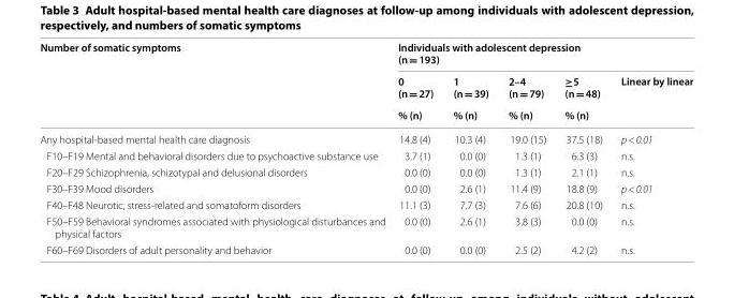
<table><thead><tr><td rowspan="3">Number of somatic symptoms</td><td colspan="5">Individuals with adolescent depression (n = 193)</td></tr><tr><td rowspan="2">0 (n = 27) % (n)</td><td rowspan="2">1 (n = 39) % (n)</td><td rowspan="2">2–4 (n = 79) % (n)</td><td rowspan="2">≥5 (n = 48) % (n)</td><td rowspan="2">Linear by linear</td></tr><tr></tr></thead><tbody><tr><td>Any hospital-based mental health care diagnosis</td><td>14.8 (4)</td><td>10.3 (4)</td><td>19.0 (15)</td><td>37.5 (18)</td><td>p &lt; 0.01</td></tr><tr><td>F10–F19 Mental and behavioral disorders due to psychoactive substance use</td><td>3.7 (1)</td><td>0.0 (0)</td><td>1.3 (1)</td><td>6.3 (3)</td><td>n.s.</td></tr><tr><td>F20–F29 Schizophrenia, schizotypal and delusional disorders</td><td>0.0 (0)</td><td>0.0 (0)</td><td>1.3 (1)</td><td>2.1 (1)</td><td>n.s.</td></tr><tr><td>F30–F39 Mood disorders</td><td>0.0 (0)</td><td>2.6 (1)</td><td>11.4 (9)</td><td>18.8 (9)</td><td>p &lt; 0.01</td></tr><tr><td>F40–F48 Neurotic, stress-related and somatoform disorders</td><td>11.1 (3)</td><td>7.7 (3)</td><td>7.6 (6)</td><td>20.8 (10)</td><td>n.s.</td></tr><tr><td>F50–F59 Behavioral syndromes associated with physiological disturbances and physical factors</td><td>0.0 (0)</td><td>2.6 (1)</td><td>3.8 (3)</td><td>0.0 (0)</td><td>n.s.</td></tr><tr><td>F60–F69 Disorders of adult personality and behavior</td><td>0.0 (0)</td><td>0.0 (0)</td><td>2.5 (2)</td><td>4.2 (2)</td><td>n.s.</td></tr></tbody></table>